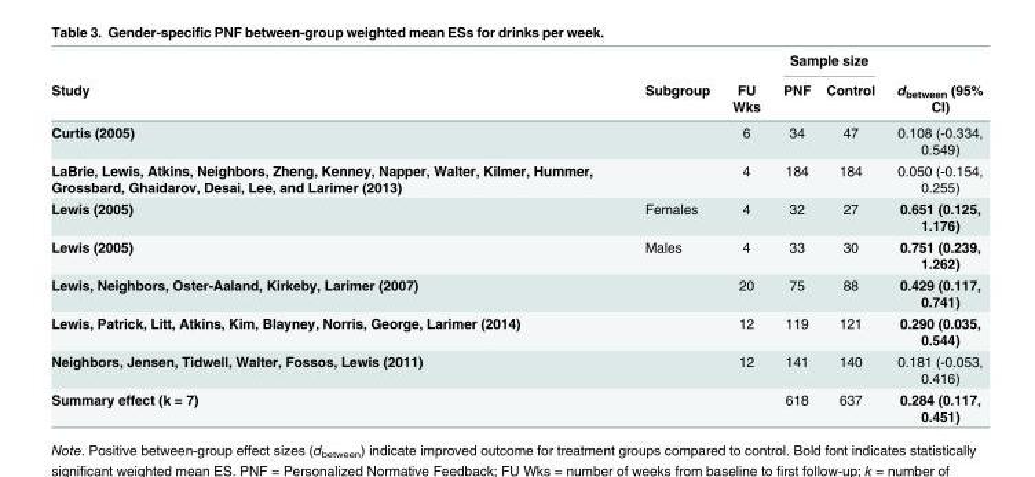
<table><thead><tr><td rowspan="2">Study</td><td rowspan="2">Subgroup</td><td rowspan="2">FU Wks</td><td colspan="2">Sample size</td><td rowspan="2">d<sub>between</sub> (95% CI)</td></tr><tr><td>PNF</td><td>Control</td></tr></thead><tbody><tr><td>Curtis (2005)</td><td></td><td>6</td><td>34</td><td>47</td><td>0.108 (-0.334, 0.549)</td></tr><tr><td>LaBrie, Lewis, Atkins, Neighbors, Zheng, Kenney, Napper, Walter, Kilmer, Hummer, Grossbard, Ghaidarov, Desai, Lee, and Larimer (2013)</td><td></td><td>4</td><td>184</td><td>184</td><td>0.050 (-0.154, 0.255)</td></tr><tr><td>Lewis (2005)</td><td>Females</td><td>4</td><td>32</td><td>27</td><td>0.651 (0.125, 1.176)</td></tr><tr><td>Lewis (2005)</td><td>Males</td><td>4</td><td>33</td><td>30</td><td>0.751 (0.239, 1.262)</td></tr><tr><td>Lewis, Neighbors, Oster-Aaland, Kirkeby, Larimer (2007)</td><td></td><td>20</td><td>75</td><td>88</td><td>0.429 (0.117, 0.741)</td></tr><tr><td>Lewis, Patrick, Litt, Atkins, Kim, Blayney, Norris, George, Larimer (2014)</td><td></td><td>12</td><td>119</td><td>121</td><td>0.290 (0.035, 0.544)</td></tr><tr><td>Neighbors, Jensen, Tidwell, Walter, Fossos, Lewis (2011)</td><td></td><td>12</td><td>141</td><td>140</td><td>0.181 (-0.053, 0.416)</td></tr><tr><td>Summary effect (k = 7)</td><td></td><td></td><td>618</td><td>637</td><td>0.284 (0.117, 0.451)</td></tr></tbody></table>